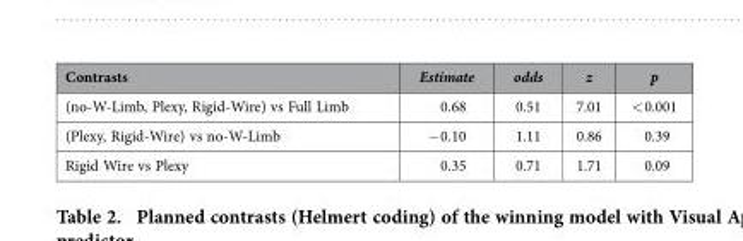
<table><thead><tr><td>Contrasts</td><td>Estimate</td><td>odds</td><td>z</td><td>p</td></tr></thead><tbody><tr><td>(no-W-Limb, Plexy, Rigid-Wire) vs Full Limb</td><td>0.68</td><td>0.51</td><td>7.01</td><td>&lt; 0.001</td></tr><tr><td>(Plexy, Rigid-Wire) vs no-W-Limb</td><td>− 0.10</td><td>1.11</td><td>0.86</td><td>0.39</td></tr><tr><td>Rigid Wire vs Plexy</td><td>0.35</td><td>0.71</td><td>1.71</td><td>0.09</td></tr></tbody></table>